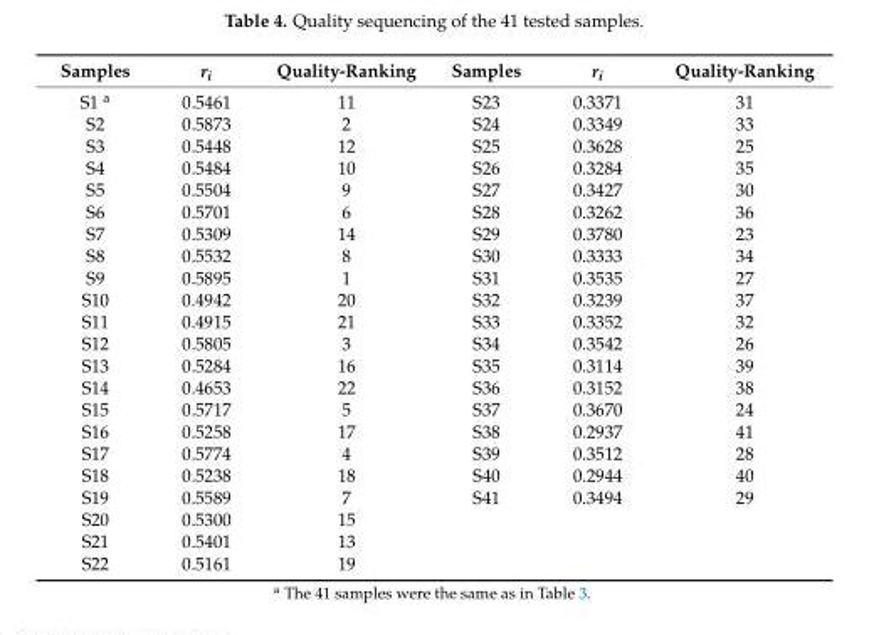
<table><thead><tr><td>Samples</td><td>r<sub>i</sub></td><td>Quality-Ranking</td><td>Samples</td><td>r<sub>i</sub></td><td>Quality-Ranking</td></tr></thead><tbody><tr><td>S1 <sup>a</sup></td><td>0.5461</td><td>11</td><td>S23</td><td>0.3371</td><td>31</td></tr><tr><td>S2</td><td>0.5873</td><td>2</td><td>S24</td><td>0.3349</td><td>33</td></tr><tr><td>S3</td><td>0.5448</td><td>12</td><td>S25</td><td>0.3628</td><td>25</td></tr><tr><td>S4</td><td>0.5484</td><td>10</td><td>S26</td><td>0.3284</td><td>35</td></tr><tr><td>S5</td><td>0.5504</td><td>9</td><td>S27</td><td>0.3427</td><td>30</td></tr><tr><td>S6</td><td>0.5701</td><td>6</td><td>S28</td><td>0.3262</td><td>36</td></tr><tr><td>S7</td><td>0.5309</td><td>14</td><td>S29</td><td>0.3780</td><td>23</td></tr><tr><td>S8</td><td>0.5532</td><td>8</td><td>S30</td><td>0.3333</td><td>34</td></tr><tr><td>S9</td><td>0.5895</td><td>1</td><td>S31</td><td>0.3535</td><td>27</td></tr><tr><td>S10</td><td>0.4942</td><td>20</td><td>S32</td><td>0.3239</td><td>37</td></tr><tr><td>S11</td><td>0.4915</td><td>21</td><td>S33</td><td>0.3352</td><td>32</td></tr><tr><td>S12</td><td>0.5805</td><td>3</td><td>S34</td><td>0.3542</td><td>26</td></tr><tr><td>S13</td><td>0.5284</td><td>16</td><td>S35</td><td>0.3114</td><td>39</td></tr><tr><td>S14</td><td>0.4653</td><td>22</td><td>S36</td><td>0.3152</td><td>38</td></tr><tr><td>S15</td><td>0.5717</td><td>5</td><td>S37</td><td>0.3670</td><td>24</td></tr><tr><td>S16</td><td>0.5258</td><td>17</td><td>S38</td><td>0.2937</td><td>41</td></tr><tr><td>S17</td><td>0.5774</td><td>4</td><td>S39</td><td>0.3512</td><td>28</td></tr><tr><td>S18</td><td>0.5238</td><td>18</td><td>S40</td><td>0.2944</td><td>40</td></tr><tr><td>S19</td><td>0.5589</td><td>7</td><td>S41</td><td>0.3494</td><td>29</td></tr><tr><td>S20</td><td>0.5300</td><td>15</td><td></td><td></td><td></td></tr><tr><td>S21</td><td>0.5401</td><td>13</td><td></td><td></td><td></td></tr><tr><td>S22</td><td>0.5161</td><td>19</td><td></td><td></td><td></td></tr></tbody></table>